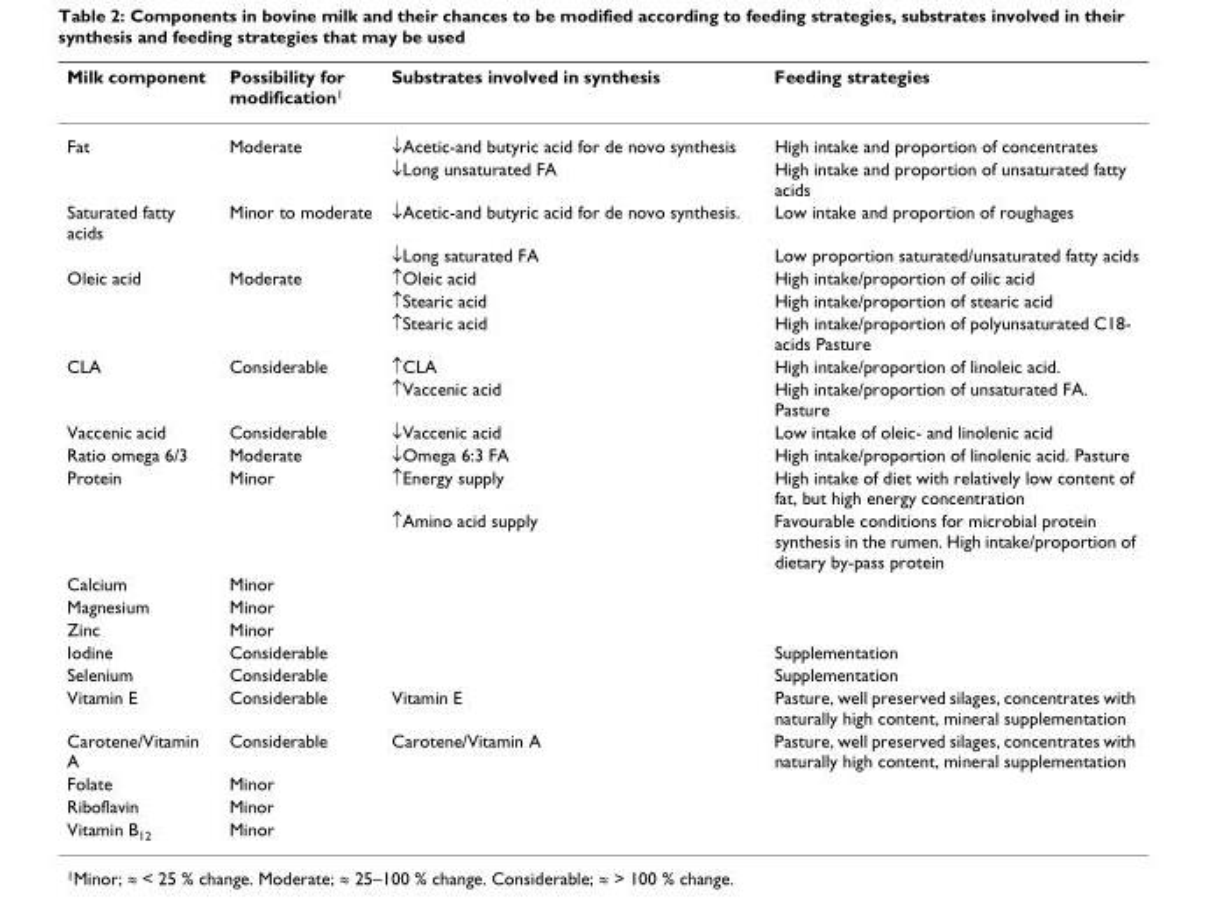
<table><thead><tr><td>Milk component</td><td>Possibility for modification<sup>1</sup></td><td>Substrates involved in synthesis</td><td>Feeding strategies</td></tr></thead><tbody><tr><td rowspan="2">Fat</td><td>Moderate</td><td>↓Acetic-and butyric acid for de novo synthesis</td><td>High intake and proportion of concentrates</td></tr><tr><td></td><td>↓Long unsaturated FA</td><td>High intake and proportion of unsaturated fatty acids</td></tr><tr><td rowspan="2">Saturated fatty acids</td><td>Minor to moderate</td><td>↓Acetic-and butyric acid for de novo synthesis.</td><td>Low intake and proportion of roughages</td></tr><tr><td></td><td>↓Long saturated FA</td><td>Low proportion saturated/unsaturated fatty acids</td></tr><tr><td rowspan="3">Oleic acid</td><td>Moderate</td><td>↑Oleic acid</td><td>High intake/proportion of oilic acid</td></tr><tr><td></td><td>↑Stearic acid</td><td>High intake/proportion of stearic acid</td></tr><tr><td></td><td>↑Stearic acid</td><td>High intake/proportion of polyunsaturated C18- acids Pasture</td></tr><tr><td rowspan="2">CLA</td><td>Considerable</td><td>↑CLA</td><td>High intake/proportion of linoleic acid.</td></tr><tr><td></td><td>↑Vaccenic acid</td><td>High intake/proportion of unsaturated FA. Pasture</td></tr><tr><td>Vaccenic acid</td><td>Considerable</td><td>↓Vaccenic acid</td><td>Low intake of oleic- and linolenic acid</td></tr><tr><td>Ratio omega 6/3</td><td>Moderate</td><td>↓Omega 6:3 FA</td><td>High intake/proportion of linolenic acid. Pasture</td></tr><tr><td rowspan="2">Protein</td><td>Minor</td><td>↑Energy supply</td><td>High intake of diet with relatively low content of fat, but high energy concentration</td></tr><tr><td></td><td>↑Amino acid supply</td><td>Favourable conditions for microbial protein synthesis in the rumen. High intake/proportion of dietary by-pass protein</td></tr><tr><td>Calcium</td><td>Minor</td><td></td><td></td></tr><tr><td>Magnesium</td><td>Minor</td><td></td><td></td></tr><tr><td>Zinc</td><td>Minor</td><td></td><td></td></tr><tr><td>Iodine</td><td>Considerable</td><td></td><td>Supplementation</td></tr><tr><td>Selenium</td><td>Considerable</td><td></td><td>Supplementation</td></tr><tr><td>Vitamin E</td><td>Considerable</td><td>Vitamin E</td><td>Pasture, well preserved silages, concentrates with naturally high content, mineral supplementation</td></tr><tr><td>Carotene/Vitamin A</td><td>Considerable</td><td>Carotene/Vitamin A</td><td>Pasture, well preserved silages, concentrates with naturally high content, mineral supplementation</td></tr><tr><td>Folate</td><td>Minor</td><td></td><td></td></tr><tr><td>Riboflavin</td><td>Minor</td><td></td><td></td></tr><tr><td>Vitamin B<sub>12</sub></td><td>Minor</td><td></td><td></td></tr></tbody></table>